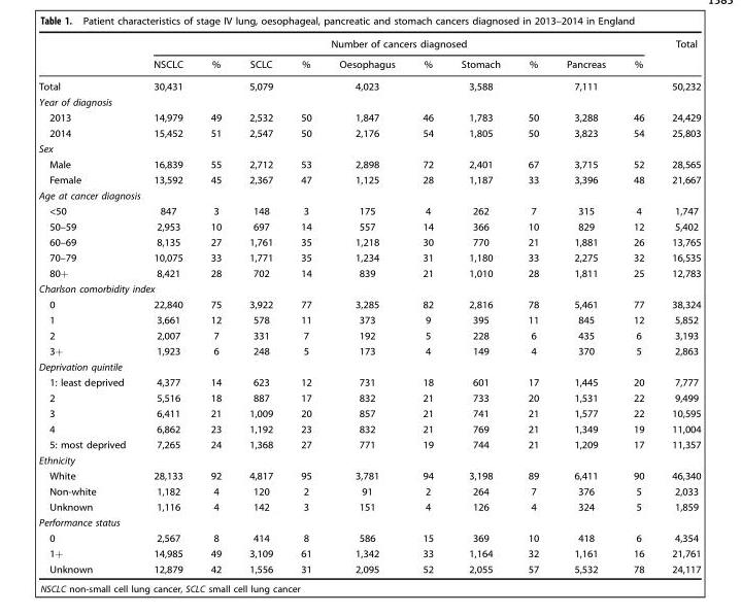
<table><thead><tr><td rowspan="2"></td><td colspan="10">Number of cancers diagnosed</td><td rowspan="2">Total</td></tr><tr><td>NSCLC</td><td>%</td><td>SCLC</td><td>%</td><td>Oesophagus</td><td>%</td><td>Stomach</td><td>%</td><td>Pancreas</td><td>%</td></tr></thead><tbody><tr><td>Total</td><td>30,431</td><td></td><td>5,079</td><td></td><td>4,023</td><td></td><td>3,588</td><td></td><td>7,111</td><td></td><td>50,232</td></tr><tr><td colspan="12">Year of diagnosis</td></tr><tr><td>2013</td><td>14,979</td><td>49</td><td>2,532</td><td>50</td><td>1,847</td><td>46</td><td>1,783</td><td>50</td><td>3,288</td><td>46</td><td>24,429</td></tr><tr><td>2014</td><td>15,452</td><td>51</td><td>2,547</td><td>50</td><td>2,176</td><td>54</td><td>1,805</td><td>50</td><td>3,823</td><td>54</td><td>25,803</td></tr><tr><td colspan="12">Sex</td></tr><tr><td>Male</td><td>16,839</td><td>55</td><td>2,712</td><td>53</td><td>2,898</td><td>72</td><td>2,401</td><td>67</td><td>3,715</td><td>52</td><td>28,565</td></tr><tr><td>Female</td><td>13,592</td><td>45</td><td>2,367</td><td>47</td><td>1,125</td><td>28</td><td>1,187</td><td>33</td><td>3,396</td><td>48</td><td>21,667</td></tr><tr><td colspan="12">Age at cancer diagnosis</td></tr><tr><td>&lt;50</td><td>847</td><td>3</td><td>148</td><td>3</td><td>175</td><td>4</td><td>262</td><td>7</td><td>315</td><td>4</td><td>1,747</td></tr><tr><td>50–59</td><td>2,953</td><td>10</td><td>697</td><td>14</td><td>557</td><td>14</td><td>366</td><td>10</td><td>829</td><td>12</td><td>5,402</td></tr><tr><td>60–69</td><td>8,135</td><td>27</td><td>1,761</td><td>35</td><td>1,218</td><td>30</td><td>770</td><td>21</td><td>1,881</td><td>26</td><td>13,765</td></tr><tr><td>70–79</td><td>10,075</td><td>33</td><td>1,771</td><td>35</td><td>1,234</td><td>31</td><td>1,180</td><td>33</td><td>2,275</td><td>32</td><td>16,535</td></tr><tr><td>80+</td><td>8,421</td><td>28</td><td>702</td><td>14</td><td>839</td><td>21</td><td>1,010</td><td>28</td><td>1,811</td><td>25</td><td>12,783</td></tr><tr><td colspan="12">Charlson comorbidity index</td></tr><tr><td>0</td><td>22,840</td><td>75</td><td>3,922</td><td>77</td><td>3,285</td><td>82</td><td>2,816</td><td>78</td><td>5,461</td><td>77</td><td>38,324</td></tr><tr><td>1</td><td>3,661</td><td>12</td><td>578</td><td>11</td><td>373</td><td>9</td><td>395</td><td>11</td><td>845</td><td>12</td><td>5,852</td></tr><tr><td>2</td><td>2,007</td><td>7</td><td>331</td><td>7</td><td>192</td><td>5</td><td>228</td><td>6</td><td>435</td><td>6</td><td>3,193</td></tr><tr><td>3+</td><td>1,923</td><td>6</td><td>248</td><td>5</td><td>173</td><td>4</td><td>149</td><td>4</td><td>370</td><td>5</td><td>2,863</td></tr><tr><td colspan="12">Deprivation quintile</td></tr><tr><td>1: least deprived</td><td>4,377</td><td>14</td><td>623</td><td>12</td><td>731</td><td>18</td><td>601</td><td>17</td><td>1,445</td><td>20</td><td>7,777</td></tr><tr><td>2</td><td>5,516</td><td>18</td><td>887</td><td>17</td><td>832</td><td>21</td><td>733</td><td>20</td><td>1,531</td><td>22</td><td>9,499</td></tr><tr><td>3</td><td>6,411</td><td>21</td><td>1,009</td><td>20</td><td>857</td><td>21</td><td>741</td><td>21</td><td>1,577</td><td>22</td><td>10,595</td></tr><tr><td>4</td><td>6,862</td><td>23</td><td>1,192</td><td>23</td><td>832</td><td>21</td><td>769</td><td>21</td><td>1,349</td><td>19</td><td>11,004</td></tr><tr><td>5: most deprived</td><td>7,265</td><td>24</td><td>1,368</td><td>27</td><td>771</td><td>19</td><td>744</td><td>21</td><td>1,209</td><td>17</td><td>11,357</td></tr><tr><td colspan="12">Ethnicity</td></tr><tr><td>White</td><td>28,133</td><td>92</td><td>4,817</td><td>95</td><td>3,781</td><td>94</td><td>3,198</td><td>89</td><td>6,411</td><td>90</td><td>46,340</td></tr><tr><td>Non-white</td><td>1,182</td><td>4</td><td>120</td><td>2</td><td>91</td><td>2</td><td>264</td><td>7</td><td>376</td><td>5</td><td>2,033</td></tr><tr><td>Unknown</td><td>1,116</td><td>4</td><td>142</td><td>3</td><td>151</td><td>4</td><td>126</td><td>4</td><td>324</td><td>5</td><td>1,859</td></tr><tr><td colspan="12">Performance status</td></tr><tr><td>0</td><td>2,567</td><td>8</td><td>414</td><td>8</td><td>586</td><td>15</td><td>369</td><td>10</td><td>418</td><td>6</td><td>4,354</td></tr><tr><td>1+</td><td>14,985</td><td>49</td><td>3,109</td><td>61</td><td>1,342</td><td>33</td><td>1,164</td><td>32</td><td>1,161</td><td>16</td><td>21,761</td></tr><tr><td>Unknown</td><td>12,879</td><td>42</td><td>1,556</td><td>31</td><td>2,095</td><td>52</td><td>2,055</td><td>57</td><td>5,532</td><td>78</td><td>24,117</td></tr></tbody></table>